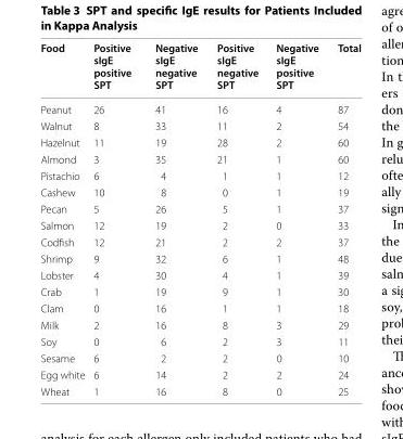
<table><thead><tr><td>Food</td><td>Positive sIgE positive SPT</td><td>Negative sIgE negative SPT</td><td>Positive sIgE negative SPT</td><td>Negative sIgE positive SPT</td><td>Total</td></tr></thead><tbody><tr><td>Peanut</td><td>26</td><td>41</td><td>16</td><td>4</td><td>87</td></tr><tr><td>Walnut</td><td>8</td><td>33</td><td>11</td><td>2</td><td>54</td></tr><tr><td>Hazelnut</td><td>11</td><td>19</td><td>28</td><td>2</td><td>60</td></tr><tr><td>Almond</td><td>3</td><td>35</td><td>21</td><td>1</td><td>60</td></tr><tr><td>Pistachio</td><td>6</td><td>4</td><td>1</td><td>1</td><td>12</td></tr><tr><td>Cashew</td><td>10</td><td>8</td><td>0</td><td>1</td><td>19</td></tr><tr><td>Pecan</td><td>5</td><td>26</td><td>5</td><td>1</td><td>37</td></tr><tr><td>Salmon</td><td>12</td><td>19</td><td>2</td><td>0</td><td>33</td></tr><tr><td>Codfish</td><td>12</td><td>21</td><td>2</td><td>2</td><td>37</td></tr><tr><td>Shrimp</td><td>9</td><td>32</td><td>6</td><td>1</td><td>48</td></tr><tr><td>Lobster</td><td>4</td><td>30</td><td>4</td><td>1</td><td>39</td></tr><tr><td>Crab</td><td>1</td><td>19</td><td>9</td><td>1</td><td>30</td></tr><tr><td>Clam</td><td>0</td><td>16</td><td>1</td><td>1</td><td>18</td></tr><tr><td>Milk</td><td>2</td><td>16</td><td>8</td><td>3</td><td>29</td></tr><tr><td>Soy</td><td>0</td><td>6</td><td>2</td><td>3</td><td>11</td></tr><tr><td>Sesame</td><td>6</td><td>2</td><td>2</td><td>0</td><td>10</td></tr><tr><td>Egg white</td><td>6</td><td>14</td><td>2</td><td>2</td><td>24</td></tr><tr><td>Wheat</td><td>1</td><td>16</td><td>8</td><td>0</td><td>25</td></tr></tbody></table>